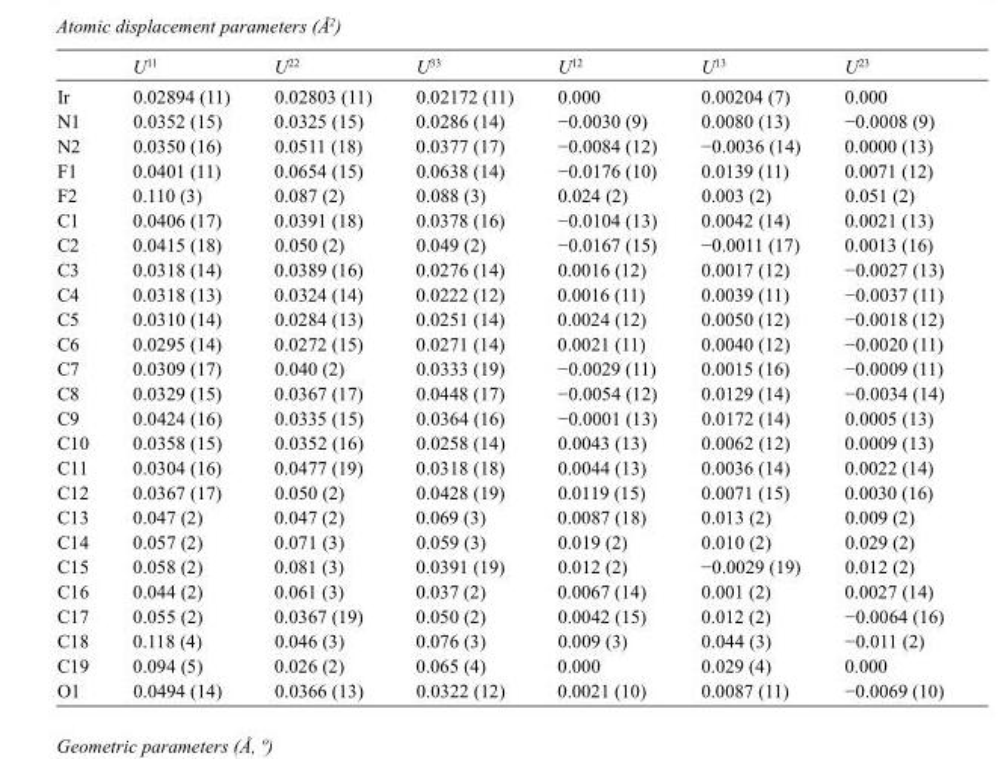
<table><thead><tr><td></td><td>U<sup>11</sup></td><td>U<sup>22</sup></td><td>U<sup>33</sup></td><td>U<sup>12</sup></td><td>U<sup>13</sup></td><td>U<sup>23</sup></td></tr></thead><tbody><tr><td>Ir</td><td>0.02894 (11)</td><td>0.02803 (11)</td><td>0.02172 (11)</td><td>0.000</td><td>0.00204 (7)</td><td>0.000</td></tr><tr><td>N1</td><td>0.0352 (15)</td><td>0.0325 (15)</td><td>0.0286 (14)</td><td>−0.0030 (9)</td><td>0.0080 (13)</td><td>−0.0008 (9)</td></tr><tr><td>N2</td><td>0.0350 (16)</td><td>0.0511 (18)</td><td>0.0377 (17)</td><td>−0.0084 (12)</td><td>−0.0036 (14)</td><td>0.0000 (13)</td></tr><tr><td>F1</td><td>0.0401 (11)</td><td>0.0654 (15)</td><td>0.0638 (14)</td><td>−0.0176 (10)</td><td>0.0139 (11)</td><td>0.0071 (12)</td></tr><tr><td>F2</td><td>0.110 (3)</td><td>0.087 (2)</td><td>0.088 (3)</td><td>0.024 (2)</td><td>0.003 (2)</td><td>0.051 (2)</td></tr><tr><td>C1</td><td>0.0406 (17)</td><td>0.0391 (18)</td><td>0.0378 (16)</td><td>−0.0104 (13)</td><td>0.0042 (14)</td><td>0.0021 (13)</td></tr><tr><td>C2</td><td>0.0415 (18)</td><td>0.050 (2)</td><td>0.049 (2)</td><td>−0.0167 (15)</td><td>−0.0011 (17)</td><td>0.0013 (16)</td></tr><tr><td>C3</td><td>0.0318 (14)</td><td>0.0389 (16)</td><td>0.0276 (14)</td><td>0.0016 (12)</td><td>0.0017 (12)</td><td>−0.0027 (13)</td></tr><tr><td>C4</td><td>0.0318 (13)</td><td>0.0324 (14)</td><td>0.0222 (12)</td><td>0.0016 (11)</td><td>0.0039 (11)</td><td>−0.0037 (11)</td></tr><tr><td>C5</td><td>0.0310 (14)</td><td>0.0284 (13)</td><td>0.0251 (14)</td><td>0.0024 (12)</td><td>0.0050 (12)</td><td>−0.0018 (12)</td></tr><tr><td>C6</td><td>0.0295 (14)</td><td>0.0272 (15)</td><td>0.0271 (14)</td><td>0.0021 (11)</td><td>0.0040 (12)</td><td>−0.0020 (11)</td></tr><tr><td>C7</td><td>0.0309 (17)</td><td>0.040 (2)</td><td>0.0333 (19)</td><td>−0.0029 (11)</td><td>0.0015 (16)</td><td>−0.0009 (11)</td></tr><tr><td>C8</td><td>0.0329 (15)</td><td>0.0367 (17)</td><td>0.0448 (17)</td><td>−0.0054 (12)</td><td>0.0129 (14)</td><td>−0.0034 (14)</td></tr><tr><td>C9</td><td>0.0424 (16)</td><td>0.0335 (15)</td><td>0.0364 (16)</td><td>−0.0001 (13)</td><td>0.0172 (14)</td><td>0.0005 (13)</td></tr><tr><td>C10</td><td>0.0358 (15)</td><td>0.0352 (16)</td><td>0.0258 (14)</td><td>0.0043 (13)</td><td>0.0062 (12)</td><td>0.0009 (13)</td></tr><tr><td>C11</td><td>0.0304 (16)</td><td>0.0477 (19)</td><td>0.0318 (18)</td><td>0.0044 (13)</td><td>0.0036 (14)</td><td>0.0022 (14)</td></tr><tr><td>C12</td><td>0.0367 (17)</td><td>0.050 (2)</td><td>0.0428 (19)</td><td>0.0119 (15)</td><td>0.0071 (15)</td><td>0.0030 (16)</td></tr><tr><td>C13</td><td>0.047 (2)</td><td>0.047 (2)</td><td>0.069 (3)</td><td>0.0087 (18)</td><td>0.013 (2)</td><td>0.009 (2)</td></tr><tr><td>C14</td><td>0.057 (2)</td><td>0.071 (3)</td><td>0.059 (3)</td><td>0.019 (2)</td><td>0.010 (2)</td><td>0.029 (2)</td></tr><tr><td>C15</td><td>0.058 (2)</td><td>0.081 (3)</td><td>0.0391 (19)</td><td>0.012 (2)</td><td>−0.0029 (19)</td><td>0.012 (2)</td></tr><tr><td>C16</td><td>0.044 (2)</td><td>0.061 (3)</td><td>0.037 (2)</td><td>0.0067 (14)</td><td>0.001 (2)</td><td>0.0027 (14)</td></tr><tr><td>C17</td><td>0.055 (2)</td><td>0.0367 (19)</td><td>0.050 (2)</td><td>0.0042 (15)</td><td>0.012 (2)</td><td>−0.0064 (16)</td></tr><tr><td>C18</td><td>0.118 (4)</td><td>0.046 (3)</td><td>0.076 (3)</td><td>0.009 (3)</td><td>0.044 (3)</td><td>−0.011 (2)</td></tr><tr><td>C19</td><td>0.094 (5)</td><td>0.026 (2)</td><td>0.065 (4)</td><td>0.000</td><td>0.029 (4)</td><td>0.000</td></tr><tr><td>O1</td><td>0.0494 (14)</td><td>0.0366 (13)</td><td>0.0322 (12)</td><td>0.0021 (10)</td><td>0.0087 (11)</td><td>−0.0069 (10)</td></tr></tbody></table>